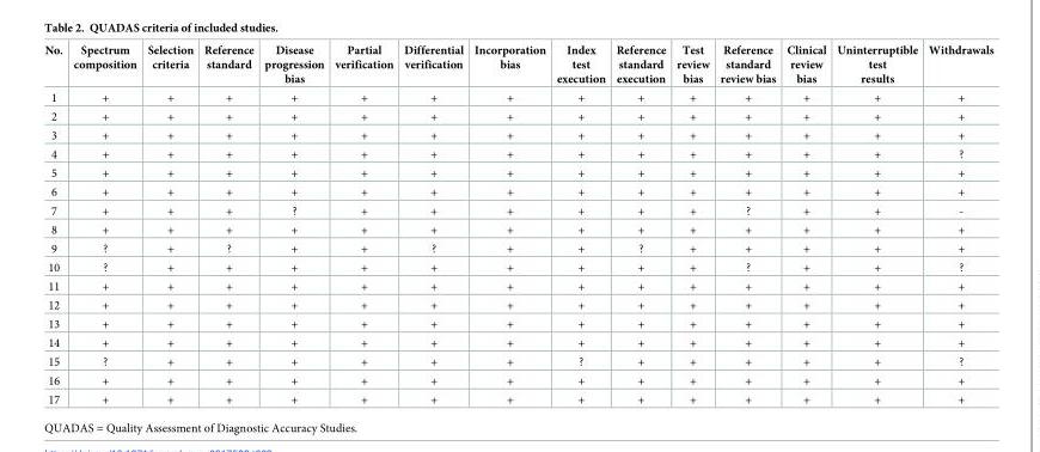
<table><thead><tr><td>No.</td><td>Spectrum composition</td><td>Selection criteria</td><td>Reference standard</td><td>Disease progression bias</td><td>Partial verification</td><td>Differential verification</td><td>Incorporation bias</td><td>Index test execution</td><td>Reference standard execution</td><td>Test review bias</td><td>Reference standard review bias</td><td>Clinical review bias</td><td>Uninterruptible test results</td><td>Withdrawals</td></tr></thead><tbody><tr><td>1</td><td>+</td><td>+</td><td>+</td><td>+</td><td>+</td><td>+</td><td>+</td><td>+</td><td>+</td><td>+</td><td>+</td><td>+</td><td>+</td><td>+</td></tr><tr><td>2</td><td>+</td><td>+</td><td>+</td><td>+</td><td>+</td><td>+</td><td>+</td><td>+</td><td>+</td><td>+</td><td>+</td><td>+</td><td>+</td><td>+</td></tr><tr><td>3</td><td>+</td><td>+</td><td>+</td><td>+</td><td>+</td><td>+</td><td>+</td><td>+</td><td>+</td><td>+</td><td>+</td><td>+</td><td>+</td><td>+</td></tr><tr><td>4</td><td>+</td><td>+</td><td>+</td><td>+</td><td>+</td><td>+</td><td>+</td><td>+</td><td>+</td><td>+</td><td>+</td><td>+</td><td>+</td><td>?</td></tr><tr><td>5</td><td>+</td><td>+</td><td>+</td><td>+</td><td>+</td><td>+</td><td>+</td><td>+</td><td>+</td><td>+</td><td>+</td><td>+</td><td>+</td><td>+</td></tr><tr><td>6</td><td>+</td><td>+</td><td>+</td><td>+</td><td>+</td><td>+</td><td>+</td><td>+</td><td>+</td><td>+</td><td>+</td><td>+</td><td>+</td><td>+</td></tr><tr><td>7</td><td>+</td><td>+</td><td>+</td><td>?</td><td>+</td><td>+</td><td>+</td><td>+</td><td>+</td><td>+</td><td>?</td><td>+</td><td>+</td><td>-</td></tr><tr><td>8</td><td>+</td><td>+</td><td>+</td><td>+</td><td>+</td><td>+</td><td>+</td><td>+</td><td>+</td><td>+</td><td>+</td><td>+</td><td>+</td><td>+</td></tr><tr><td>9</td><td>?</td><td>+</td><td>?</td><td>+</td><td>+</td><td>?</td><td>+</td><td>+</td><td>?</td><td>+</td><td>+</td><td>+</td><td>+</td><td>+</td></tr><tr><td>10</td><td>?</td><td>+</td><td>+</td><td>+</td><td>+</td><td>+</td><td>+</td><td>+</td><td>+</td><td>+</td><td>?</td><td>+</td><td>+</td><td>?</td></tr><tr><td>11</td><td>+</td><td>+</td><td>+</td><td>+</td><td>+</td><td>+</td><td>+</td><td>+</td><td>+</td><td>+</td><td>+</td><td>+</td><td>+</td><td>+</td></tr><tr><td>12</td><td>+</td><td>+</td><td>+</td><td>+</td><td>+</td><td>+</td><td>+</td><td>+</td><td>+</td><td>+</td><td>+</td><td>+</td><td>+</td><td>+</td></tr><tr><td>13</td><td>+</td><td>+</td><td>+</td><td>+</td><td>+</td><td>+</td><td>+</td><td>+</td><td>+</td><td>+</td><td>+</td><td>+</td><td>+</td><td>+</td></tr><tr><td>14</td><td>+</td><td>+</td><td>+</td><td>+</td><td>+</td><td>+</td><td>+</td><td>+</td><td>+</td><td>+</td><td>+</td><td>+</td><td>+</td><td>+</td></tr><tr><td>15</td><td>?</td><td>+</td><td>+</td><td>+</td><td>+</td><td>+</td><td>+</td><td>?</td><td>+</td><td>+</td><td>+</td><td>+</td><td>+</td><td>?</td></tr><tr><td>16</td><td>+</td><td>+</td><td>+</td><td>+</td><td>+</td><td>+</td><td>+</td><td>+</td><td>+</td><td>+</td><td>+</td><td>+</td><td>+</td><td>+</td></tr><tr><td>17</td><td>+</td><td>+</td><td>+</td><td>+</td><td>+</td><td>+</td><td>+</td><td>+</td><td>+</td><td>+</td><td>+</td><td>+</td><td>+</td><td>+</td></tr></tbody></table>